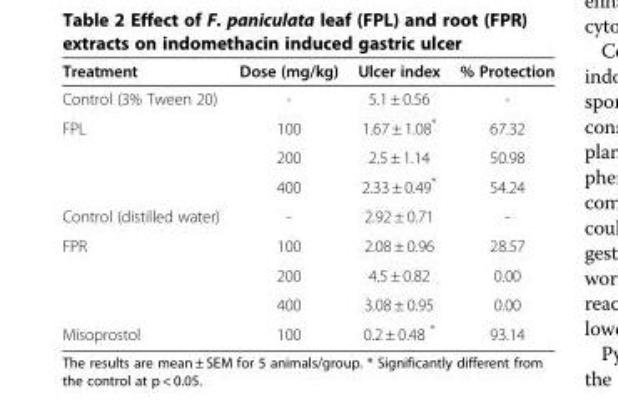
<table><thead><tr><td>Treatment</td><td>Dose (mg/kg)</td><td>Ulcer index</td><td>% Protection</td></tr></thead><tbody><tr><td>Control (3% Tween 20)</td><td>-</td><td>5.1 ± 0.56</td><td>-</td></tr><tr><td rowspan="3">FPL</td><td>100</td><td>1.67 ± 1.08*</td><td>67.32</td></tr><tr><td>200</td><td>2.5 ± 1.14</td><td>50.98</td></tr><tr><td>400</td><td>2.33 ± 0.49*</td><td>54.24</td></tr><tr><td>Control (distilled water)</td><td>-</td><td>2.92 ± 0.71</td><td>-</td></tr><tr><td rowspan="3">FPR</td><td>100</td><td>2.08 ± 0.96</td><td>28.57</td></tr><tr><td>200</td><td>4.5 ± 0.82</td><td>0.00</td></tr><tr><td>400</td><td>3.08 ± 0.95</td><td>0.00</td></tr><tr><td>Misoprostol</td><td>100</td><td>0.2 ± 0.48 *</td><td>93.14</td></tr></tbody></table>